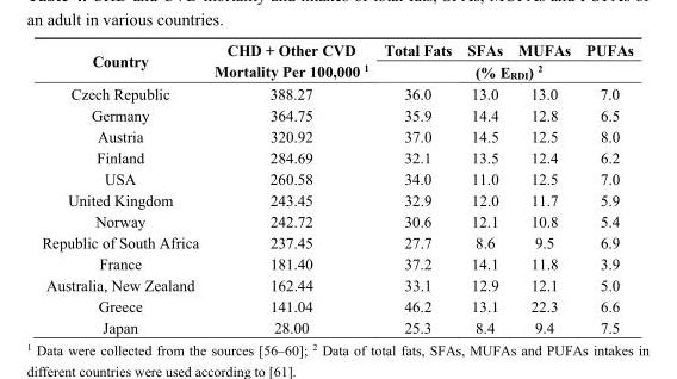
<table><thead><tr><td rowspan="2">Country</td><td rowspan="2">CHD + Other CVD Mortality Per 100,000 <sup>1</sup></td><td>Total Fats</td><td>SFAs</td><td>MUFAs</td><td>PUFAs</td></tr><tr><td colspan="4">(% E<sub>RDI</sub>) <sup>2</sup></td></tr></thead><tbody><tr><td>Czech Republic</td><td>388.27</td><td>36.0</td><td>13.0</td><td>13.0</td><td>7.0</td></tr><tr><td>Germany</td><td>364.75</td><td>35.9</td><td>14.4</td><td>12.8</td><td>6.5</td></tr><tr><td>Austria</td><td>320.92</td><td>37.0</td><td>14.5</td><td>12.5</td><td>8.0</td></tr><tr><td>Finland</td><td>284.69</td><td>32.1</td><td>13.5</td><td>12.4</td><td>6.2</td></tr><tr><td>USA</td><td>260.58</td><td>34.0</td><td>11.0</td><td>12.5</td><td>7.0</td></tr><tr><td>United Kingdom</td><td>243.45</td><td>32.9</td><td>12.0</td><td>11.7</td><td>5.9</td></tr><tr><td>Norway</td><td>242.72</td><td>30.6</td><td>12.1</td><td>10.8</td><td>5.4</td></tr><tr><td>Republic of South Africa</td><td>237.45</td><td>27.7</td><td>8.6</td><td>9.5</td><td>6.9</td></tr><tr><td>France</td><td>181.40</td><td>37.2</td><td>14.1</td><td>11.8</td><td>3.9</td></tr><tr><td>Australia, New Zealand</td><td>162.44</td><td>33.1</td><td>12.9</td><td>12.1</td><td>5.0</td></tr><tr><td>Greece</td><td>141.04</td><td>46.2</td><td>13.1</td><td>22.3</td><td>6.6</td></tr><tr><td>Japan</td><td>28.00</td><td>25.3</td><td>8.4</td><td>9.4</td><td>7.5</td></tr></tbody></table>